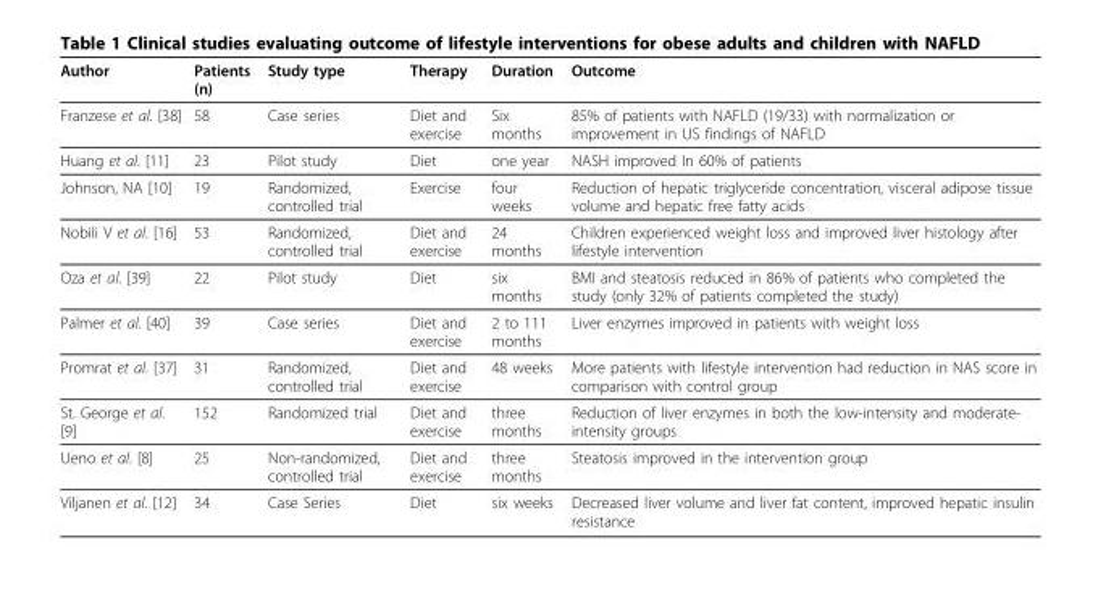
<table><thead><tr><td>Author</td><td>Patients (n)</td><td>Study type</td><td>Therapy</td><td>Duration</td><td>Outcome</td></tr></thead><tbody><tr><td>Franzese et al. [38]</td><td>58</td><td>Case series</td><td>Diet and exercise</td><td>Six months</td><td>85% of patients with NAFLD (19/33) with normalization or improvement in US findings of NAFLD</td></tr><tr><td>Huang et al. [11]</td><td>23</td><td>Pilot study</td><td>Diet</td><td>one year</td><td>NASH improved In 60% of patients</td></tr><tr><td>Johnson, NA [10]</td><td>19</td><td>Randomized, controlled trial</td><td>Exercise</td><td>four weeks</td><td>Reduction of hepatic triglyceride concentration, visceral adipose tissue volume and hepatic free fatty acids</td></tr><tr><td>Nobili V et al. [16]</td><td>53</td><td>Randomized, controlled trial</td><td>Diet and exercise</td><td>24 months</td><td>Children experienced weight loss and improved liver histology after lifestyle intervention</td></tr><tr><td>Oza et al. [39]</td><td>22</td><td>Pilot study</td><td>Diet</td><td>six months</td><td>BMI and steatosis reduced in 86% of patients who completed the study (only 32% of patients completed the study)</td></tr><tr><td>Palmer et al. [40]</td><td>39</td><td>Case series</td><td>Diet and exercise</td><td>2 to 111 months</td><td>Liver enzymes improved in patients with weight loss</td></tr><tr><td>Promrat et al. [37]</td><td>31</td><td>Randomized, controlled trial</td><td>Diet and exercise</td><td>48 weeks</td><td>More patients with lifestyle intervention had reduction in NAS score in comparison with control group</td></tr><tr><td>St. George et al. [9]</td><td>152</td><td>Randomized trial</td><td>Diet and exercise</td><td>three months</td><td>Reduction of liver enzymes in both the low-intensity and moderate- intensity groups</td></tr><tr><td>Ueno et al. [8]</td><td>25</td><td>Non-randomized, controlled trial</td><td>Diet and exercise</td><td>three months</td><td>Steatosis improved in the intervention group</td></tr><tr><td>Viljanen et al. [12]</td><td>34</td><td>Case Series</td><td>Diet</td><td>six weeks</td><td>Decreased liver volume and liver fat content, improved hepatic insulin resistance</td></tr></tbody></table>